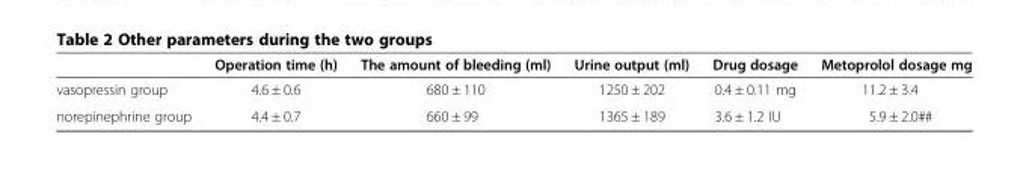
<table><thead><tr><td></td><td>Operation time (h)</td><td>The amount of bleeding (ml)</td><td>Urine output (ml)</td><td>Drug dosage</td><td>Metoprolol dosage mg</td></tr></thead><tbody><tr><td>vasopressin group</td><td>4.6 ± 0.6</td><td>680 ± 110</td><td>1250 ± 202</td><td>0.4 ± 0.11 mg</td><td>11.2 ± 3.4</td></tr><tr><td>norepinephrine group</td><td>4.4 ± 0.7</td><td>660 ± 99</td><td>1365 ± 189</td><td>3.6 ± 1.2 IU</td><td>5.9 ± 2.0##</td></tr></tbody></table>